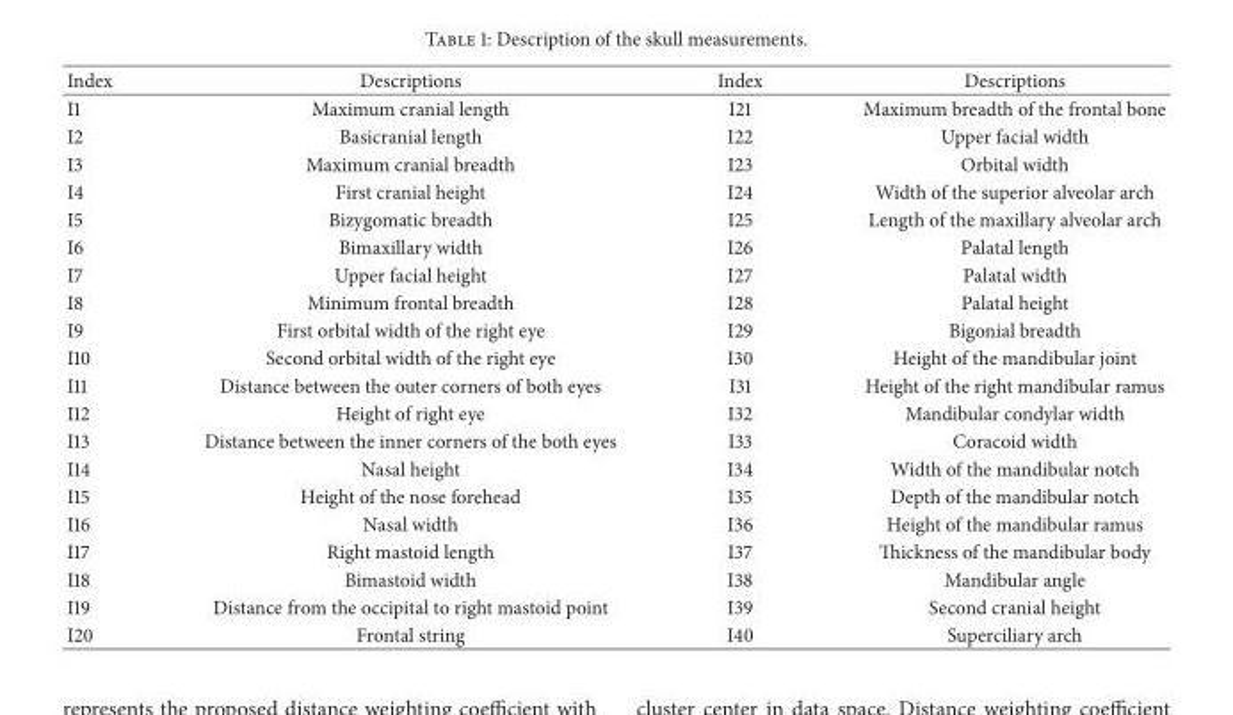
<table><thead><tr><td>Index</td><td>Descriptions</td><td>Index</td><td>Descriptions</td></tr></thead><tbody><tr><td>I1</td><td>Maximum cranial length</td><td>I21</td><td>Maximum breadth of the frontal bone</td></tr><tr><td>I2</td><td>Basicranial length</td><td>I22</td><td>Upper facial width</td></tr><tr><td>I3</td><td>Maximum cranial breadth</td><td>I23</td><td>Orbital width</td></tr><tr><td>I4</td><td>First cranial height</td><td>I24</td><td>Width of the superior alveolar arch</td></tr><tr><td>I5</td><td>Bizygomatic breadth</td><td>I25</td><td>Length of the maxillary alveolar arch</td></tr><tr><td>I6</td><td>Bimaxillary width</td><td>I26</td><td>Palatal length</td></tr><tr><td>I7</td><td>Upper facial height</td><td>I27</td><td>Palatal width</td></tr><tr><td>I8</td><td>Minimum frontal breadth</td><td>I28</td><td>Palatal height</td></tr><tr><td>I9</td><td>First orbital width of the right eye</td><td>I29</td><td>Bigonial breadth</td></tr><tr><td>I10</td><td>Second orbital width of the right eye</td><td>I30</td><td>Height of the mandibular joint</td></tr><tr><td>I11</td><td>Distance between the outer corners of both eyes</td><td>I31</td><td>Height of the right mandibular ramus</td></tr><tr><td>I12</td><td>Height of right eye</td><td>I32</td><td>Mandibular condylar width</td></tr><tr><td>I13</td><td>Distance between the inner corners of the both eyes</td><td>I33</td><td>Coracoid width</td></tr><tr><td>I14</td><td>Nasal height</td><td>I34</td><td>Width of the mandibular notch</td></tr><tr><td>I15</td><td>Height of the nose forehead</td><td>I35</td><td>Depth of the mandibular notch</td></tr><tr><td>I16</td><td>Nasal width</td><td>I36</td><td>Height of the mandibular ramus</td></tr><tr><td>I17</td><td>Right mastoid length</td><td>I37</td><td>Thickness of the mandibular body</td></tr><tr><td>I18</td><td>Bimastoid width</td><td>I38</td><td>Mandibular angle</td></tr><tr><td>I19</td><td>Distance from the occipital to right mastoid point</td><td>I39</td><td>Second cranial height</td></tr><tr><td>I20</td><td>Frontal string</td><td>I40</td><td>Superciliary arch</td></tr></tbody></table>